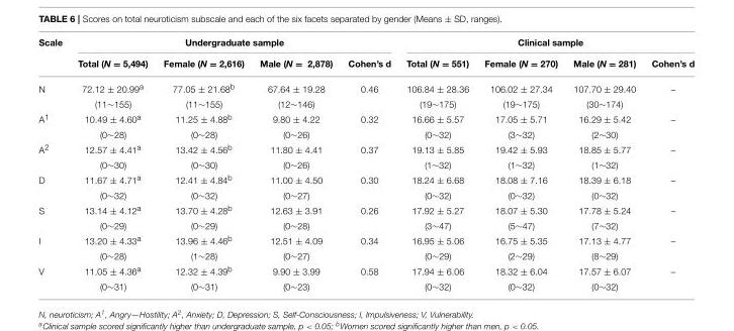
<table><thead><tr><td rowspan="2">Scale</td><td colspan="4">Undergraduate sample</td><td colspan="4">Clinical sample</td></tr><tr><td>Total (N = 5,494)</td><td>Female (N = 2,616)</td><td>Male (N = 2,878)</td><td>Cohen’s d</td><td>Total (N = 551)</td><td>Female (N = 270)</td><td>Male (N = 281)</td><td>Cohen’s d</td></tr></thead><tbody><tr><td rowspan="2">N</td><td>72.12 ± 20.99<sup>a</sup></td><td>77.05 ± 21.68<sup>b</sup></td><td>67.64 ± 19.28</td><td>0.46</td><td>106.84 ± 28.36</td><td>106.02 ± 27.34</td><td>107.70 ± 29.40</td><td>–</td></tr><tr><td>(11∼155)</td><td>(11∼155)</td><td>(12∼146)</td><td></td><td>(19∼175)</td><td>(19∼175)</td><td>(30∼174)</td><td></td></tr><tr><td rowspan="2">A<sup>1</sup></td><td>10.49 ± 4.60<sup>a</sup></td><td>11.25 ± 4.88<sup>b</sup></td><td>9.80 ± 4.22</td><td>0.32</td><td>16.66 ± 5.57</td><td>17.05 ± 5.71</td><td>16.29 ± 5.42</td><td>–</td></tr><tr><td>(0∼28)</td><td>(0∼28)</td><td>(0∼26)</td><td></td><td>(0∼32)</td><td>(3∼32)</td><td>(2∼30)</td><td></td></tr><tr><td rowspan="2">A<sup>2</sup></td><td>12.57 ± 4.41<sup>a</sup></td><td>13.42 ± 4.56<sup>b</sup></td><td>11.80 ± 4.41</td><td>0.37</td><td>19.13 ± 5.85</td><td>19.42 ± 5.93</td><td>18.85 ± 5.77</td><td>–</td></tr><tr><td>(0∼30)</td><td>(0∼30)</td><td>(0∼26)</td><td></td><td>(1∼32)</td><td>(1∼32)</td><td>(1∼32)</td><td></td></tr><tr><td rowspan="2">D</td><td>11.67 ± 4.71<sup>a</sup></td><td>12.41 ± 4.84<sup>b</sup></td><td>11.00 ± 4.50</td><td>0.30</td><td>18.24 ± 6.68</td><td>18.08 ± 7.16</td><td>18.39 ± 6.18</td><td>–</td></tr><tr><td>(0∼32)</td><td>(0∼32)</td><td>(0∼27)</td><td></td><td>(0∼32)</td><td>(0∼32)</td><td>(0∼32)</td><td></td></tr><tr><td rowspan="2">S</td><td>13.14 ± 4.12<sup>a</sup></td><td>13.70 ± 4.28<sup>b</sup></td><td>12.63 ± 3.91</td><td>0.26</td><td>17.92 ± 5.27</td><td>18.07 ± 5.30</td><td>17.78 ± 5.24</td><td>–</td></tr><tr><td>(0∼29)</td><td>(0∼29)</td><td>(0∼28)</td><td></td><td>(3∼47)</td><td>(5∼47)</td><td>(7∼32)</td><td></td></tr><tr><td rowspan="2">I</td><td>13.20 ± 4.33<sup>a</sup></td><td>13.96 ± 4.46<sup>b</sup></td><td>12.51 ± 4.09</td><td>0.34</td><td>16.95 ± 5.06</td><td>16.75 ± 5.35</td><td>17.13 ± 4.77</td><td>–</td></tr><tr><td>(0∼28)</td><td>(1∼28)</td><td>(0∼27)</td><td></td><td>(0∼29)</td><td>(2∼29)</td><td>(8∼29)</td><td></td></tr><tr><td rowspan="2">V</td><td>11.05 ± 4.36<sup>a</sup></td><td>12.32 ± 4.39<sup>b</sup></td><td>9.90 ± 3.99</td><td>0.58</td><td>17.94 ± 6.06</td><td>18.32 ± 6.04</td><td>17.57 ± 6.07</td><td>–</td></tr><tr><td>(0∼31)</td><td>(0∼31)</td><td>(0∼23)</td><td></td><td>(0∼32)</td><td>(0∼32)</td><td>(0∼32)</td><td></td></tr></tbody></table>